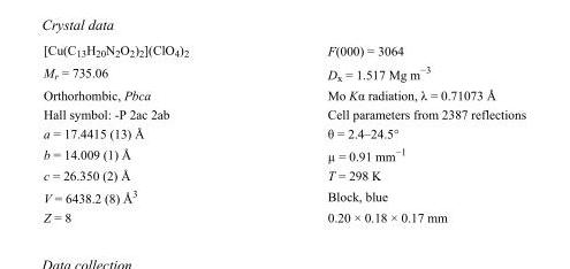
<table><tbody><tr><td>[Cu(C<sub>13</sub>H<sub>20</sub>N<sub>2</sub>O<sub>2</sub>)<sub>2</sub>](ClO<sub>4</sub>)<sub>2</sub></td><td>F(000) = 3064</td></tr><tr><td>M<sub>r</sub> = 735.06</td><td>D<sub>x</sub> = 1.517 Mg m<sup>−3</sup></td></tr><tr><td>Orthorhombic, Pbca</td><td>Mo Kα radiation, λ = 0.71073 Å</td></tr><tr><td>Hall symbol: -P 2ac 2ab</td><td>Cell parameters from 2387 reflections</td></tr><tr><td>a = 17.4415 (13) Å</td><td>θ = 2.4–24.5°</td></tr><tr><td>b = 14.009 (1) Å</td><td>µ = 0.91 mm<sup>−1</sup></td></tr><tr><td>c = 26.350 (2) Å</td><td>T = 298 K</td></tr><tr><td>V = 6438.2 (8) Å<sup>3</sup></td><td>Block, blue</td></tr><tr><td>Z = 8</td><td>0.20 × 0.18 × 0.17 mm</td></tr></tbody></table>